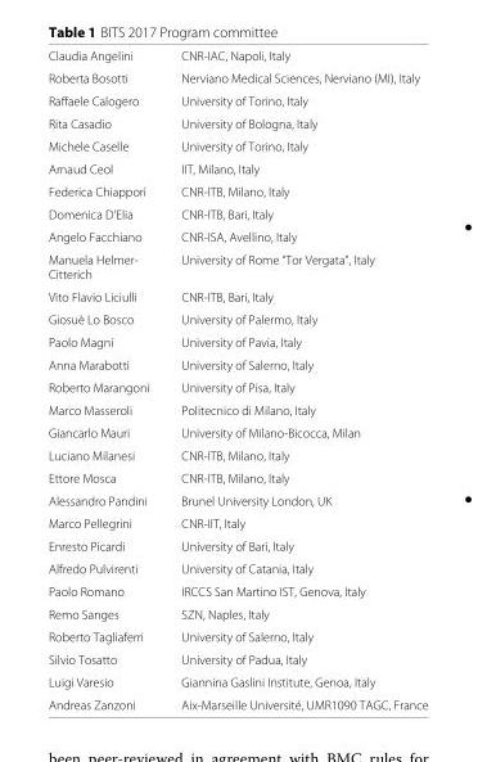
<table><tbody><tr><td>Claudia Angelini</td><td>CNR-IAC, Napoli, Italy</td></tr><tr><td>Roberta Bosotti</td><td>Nerviano Medical Sciences, Nerviano (MI), Italy</td></tr><tr><td>Raffaele Calogero</td><td>University of Torino, Italy</td></tr><tr><td>Rita Casadio</td><td>University of Bologna, Italy</td></tr><tr><td>Michele Caselle</td><td>University of Torino, Italy</td></tr><tr><td>Arnaud Ceol</td><td>IIT, Milano, Italy</td></tr><tr><td>Federica Chiappori</td><td>CNR-ITB, Milano, Italy</td></tr><tr><td>Domenica D’Elia</td><td>CNR-ITB, Bari, Italy</td></tr><tr><td>Angelo Facchiano</td><td>CNR-ISA, Avellino, Italy</td></tr><tr><td>Manuela Helmer- Citterich</td><td>University of Rome “Tor Vergata”, Italy</td></tr><tr><td>Vito Flavio Liciulli</td><td>CNR-ITB, Bari, Italy</td></tr><tr><td>Giosuè Lo Bosco</td><td>University of Palermo, Italy</td></tr><tr><td>Paolo Magni</td><td>University of Pavia, Italy</td></tr><tr><td>Anna Marabotti</td><td>University of Salerno, Italy</td></tr><tr><td>Roberto Marangoni</td><td>University of Pisa, Italy</td></tr><tr><td>Marco Masseroli</td><td>Politecnico di Milano, Italy</td></tr><tr><td>Giancarlo Mauri</td><td>University of Milano-Bicocca, Milan</td></tr><tr><td>Luciano Milanesi</td><td>CNR-ITB, Milano, Italy</td></tr><tr><td>Ettore Mosca</td><td>CNR-ITB, Milano, Italy</td></tr><tr><td>Alessandro Pandini</td><td>Brunel University London, UK</td></tr><tr><td>Marco Pellegrini</td><td>CNR-IIT, Italy</td></tr><tr><td>Enresto Picardi</td><td>University of Bari, Italy</td></tr><tr><td>Alfredo Pulvirenti</td><td>University of Catania, Italy</td></tr><tr><td>Paolo Romano</td><td>IRCCS San Martino IST, Genova, Italy</td></tr><tr><td>Remo Sanges</td><td>SZN, Naples, Italy</td></tr><tr><td>Roberto Tagliaferri</td><td>University of Salerno, Italy</td></tr><tr><td>Silvio Tosatto</td><td>University of Padua, Italy</td></tr><tr><td>Luigi Varesio</td><td>Giannina Gaslini Institute, Genoa, Italy</td></tr><tr><td>Andreas Zanzoni</td><td>Aix-Marseille Université, UMR1090 TAGC, France</td></tr></tbody></table>